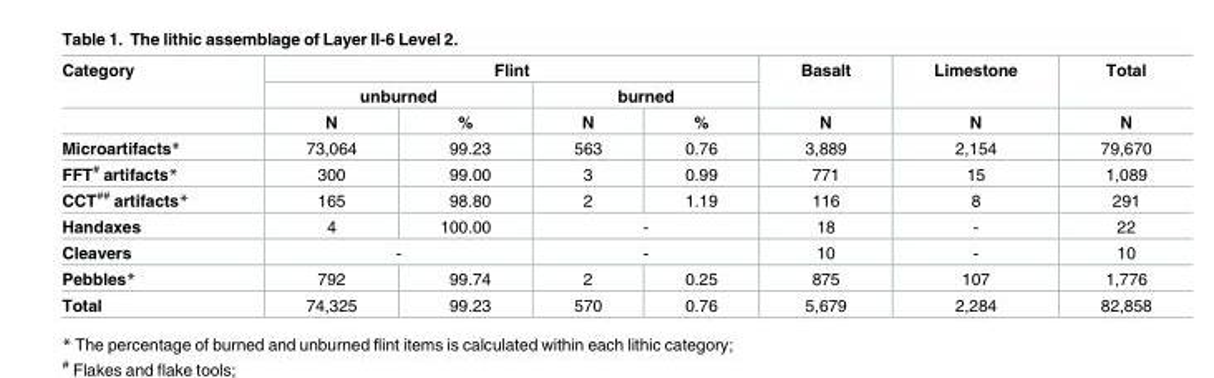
<table><thead><tr><td rowspan="3">Category</td><td colspan="4">Flint</td><td rowspan="3">Basalt N</td><td rowspan="3">Limestone N</td><td rowspan="3">Total N</td></tr><tr><td colspan="2">unburned</td><td colspan="2">burned</td></tr><tr><td>N</td><td>%</td><td>N</td><td>%</td></tr></thead><tbody><tr><td>Microartifacts*</td><td>73,064</td><td>99.23</td><td>563</td><td>0.76</td><td>3,889</td><td>2,154</td><td>79,670</td></tr><tr><td>FFT<sup>#</sup> artifacts*</td><td>300</td><td>99.00</td><td>3</td><td>0.99</td><td>771</td><td>15</td><td>1,089</td></tr><tr><td>CCT<sup>##</sup> artifacts*</td><td>165</td><td>98.80</td><td>2</td><td>1.19</td><td>116</td><td>8</td><td>291</td></tr><tr><td>Handaxes</td><td>4</td><td>100.00</td><td colspan="2">-</td><td>18</td><td>-</td><td>22</td></tr><tr><td>Cleavers</td><td colspan="2">-</td><td colspan="2">-</td><td>10</td><td>-</td><td>10</td></tr><tr><td>Pebbles*</td><td>792</td><td>99.74</td><td>2</td><td>0.25</td><td>875</td><td>107</td><td>1,776</td></tr><tr><td>Total</td><td>74,325</td><td>99.23</td><td>570</td><td>0.76</td><td>5,679</td><td>2,284</td><td>82,858</td></tr></tbody></table>